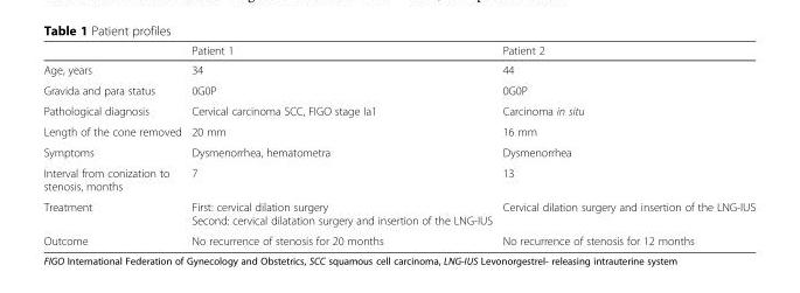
<table><thead><tr><td></td><td>Patient 1</td><td>Patient 2</td></tr></thead><tbody><tr><td>Age, years</td><td>34</td><td>44</td></tr><tr><td>Gravida and para status</td><td>0G0P</td><td>0G0P</td></tr><tr><td>Pathological diagnosis</td><td>Cervical carcinoma SCC, FIGO stage Ia1</td><td>Carcinoma in situ</td></tr><tr><td>Length of the cone removed</td><td>20 mm</td><td>16 mm</td></tr><tr><td>Symptoms</td><td>Dysmenorrhea, hematometra</td><td>Dysmenorrhea</td></tr><tr><td>Interval from conization to stenosis, months</td><td>7</td><td>13</td></tr><tr><td>Treatment</td><td>First: cervical dilation surgery Second: cervical dilatation surgery and insertion of the LNG-IUS</td><td>Cervical dilation surgery and insertion of the LNG-IUS</td></tr><tr><td>Outcome</td><td>No recurrence of stenosis for 20 months</td><td>No recurrence of stenosis for 12 months</td></tr></tbody></table>